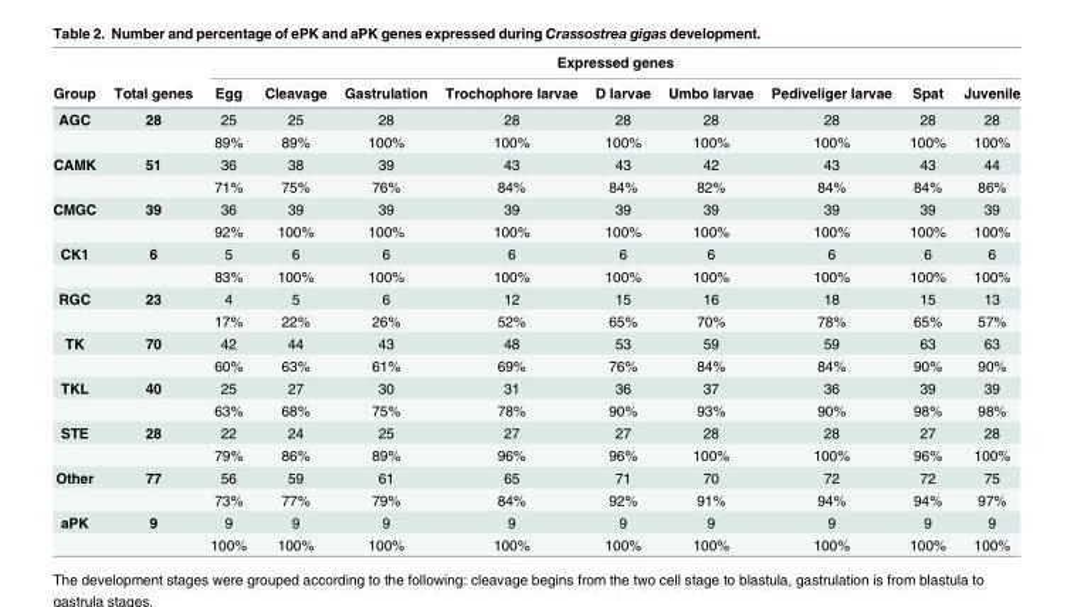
<table><thead><tr><td rowspan="2">Group</td><td rowspan="2">Total genes</td><td colspan="9">Expressed genes</td></tr><tr><td>Egg</td><td>Cleavage</td><td>Gastrulation</td><td>Trochophore larvae</td><td>D larvae</td><td>Umbo larvae</td><td>Pediveliger larvae</td><td>Spat</td><td>Juvenile</td></tr></thead><tbody><tr><td rowspan="2">AGC</td><td>28</td><td>25</td><td>25</td><td>28</td><td>28</td><td>28</td><td>28</td><td>28</td><td>28</td><td>28</td></tr><tr><td></td><td>89%</td><td>89%</td><td>100%</td><td>100%</td><td>100%</td><td>100%</td><td>100%</td><td>100%</td><td>100%</td></tr><tr><td rowspan="2">CAMK</td><td>51</td><td>36</td><td>38</td><td>39</td><td>43</td><td>43</td><td>42</td><td>43</td><td>43</td><td>44</td></tr><tr><td></td><td>71%</td><td>75%</td><td>76%</td><td>84%</td><td>84%</td><td>82%</td><td>84%</td><td>84%</td><td>86%</td></tr><tr><td rowspan="2">CMGC</td><td>39</td><td>36</td><td>39</td><td>39</td><td>39</td><td>39</td><td>39</td><td>39</td><td>39</td><td>39</td></tr><tr><td></td><td>92%</td><td>100%</td><td>100%</td><td>100%</td><td>100%</td><td>100%</td><td>100%</td><td>100%</td><td>100%</td></tr><tr><td rowspan="2">CK1</td><td>6</td><td>5</td><td>6</td><td>6</td><td>6</td><td>6</td><td>6</td><td>6</td><td>6</td><td>6</td></tr><tr><td></td><td>83%</td><td>100%</td><td>100%</td><td>100%</td><td>100%</td><td>100%</td><td>100%</td><td>100%</td><td>100%</td></tr><tr><td rowspan="2">RGC</td><td>23</td><td>4</td><td>5</td><td>6</td><td>12</td><td>15</td><td>16</td><td>18</td><td>15</td><td>13</td></tr><tr><td></td><td>17%</td><td>22%</td><td>26%</td><td>52%</td><td>65%</td><td>70%</td><td>78%</td><td>65%</td><td>57%</td></tr><tr><td rowspan="2">TK</td><td>70</td><td>42</td><td>44</td><td>43</td><td>48</td><td>53</td><td>59</td><td>59</td><td>63</td><td>63</td></tr><tr><td></td><td>60%</td><td>63%</td><td>61%</td><td>69%</td><td>76%</td><td>84%</td><td>84%</td><td>90%</td><td>90%</td></tr><tr><td rowspan="2">TKL</td><td>40</td><td>25</td><td>27</td><td>30</td><td>31</td><td>36</td><td>37</td><td>36</td><td>39</td><td>39</td></tr><tr><td></td><td>63%</td><td>68%</td><td>75%</td><td>78%</td><td>90%</td><td>93%</td><td>90%</td><td>98%</td><td>98%</td></tr><tr><td rowspan="2">STE</td><td>28</td><td>22</td><td>24</td><td>25</td><td>27</td><td>27</td><td>28</td><td>28</td><td>27</td><td>28</td></tr><tr><td></td><td>79%</td><td>86%</td><td>89%</td><td>96%</td><td>96%</td><td>100%</td><td>100%</td><td>96%</td><td>100%</td></tr><tr><td rowspan="2">Other</td><td>77</td><td>56</td><td>59</td><td>61</td><td>65</td><td>71</td><td>70</td><td>72</td><td>72</td><td>75</td></tr><tr><td></td><td>73%</td><td>77%</td><td>79%</td><td>84%</td><td>92%</td><td>91%</td><td>94%</td><td>94%</td><td>97%</td></tr><tr><td rowspan="2">aPK</td><td>9</td><td>9</td><td>9</td><td>9</td><td>9</td><td>9</td><td>9</td><td>9</td><td>9</td><td>9</td></tr><tr><td></td><td>100%</td><td>100%</td><td>100%</td><td>100%</td><td>100%</td><td>100%</td><td>100%</td><td>100%</td><td>100%</td></tr></tbody></table>